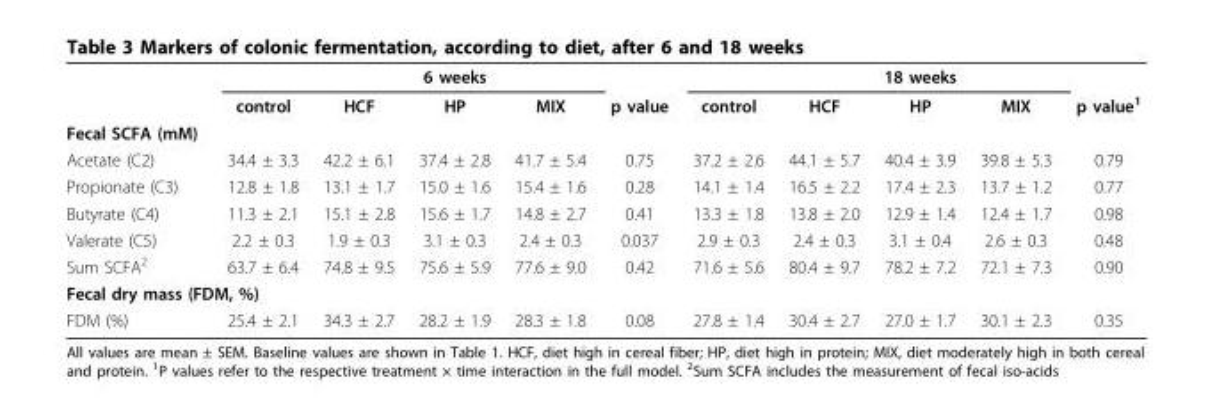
<table><thead><tr><td rowspan="2"></td><td rowspan="2">control</td><td colspan="3">6 weeks</td><td rowspan="2">p value</td><td rowspan="2">control</td><td colspan="3">18 weeks</td><td rowspan="2">p value<sup>1</sup></td></tr><tr><td>HCF</td><td>HP</td><td>MIX</td><td>HCF</td><td>HP</td><td>MIX</td></tr></thead><tbody><tr><td colspan="11">Fecal SCFA (mM)</td></tr><tr><td>Acetate (C2)</td><td>34.4 ± 3.3</td><td>42.2 ± 6.1</td><td>37.4 ± 2.8</td><td>41.7 ± 5.4</td><td>0.75</td><td>37.2 ± 2.6</td><td>44.1 ± 5.7</td><td>40.4 ± 3.9</td><td>39.8 ± 5.3</td><td>0.79</td></tr><tr><td>Propionate (C3)</td><td>12.8 ± 1.8</td><td>13.1 ± 1.7</td><td>15.0 ± 1.6</td><td>15.4 ± 1.6</td><td>0.28</td><td>14.1 ± 1.4</td><td>16.5 ± 2.2</td><td>17.4 ± 2.3</td><td>13.7 ± 1.2</td><td>0.77</td></tr><tr><td>Butyrate (C4)</td><td>11.3 ± 2.1</td><td>15.1 ± 2.8</td><td>15.6 ± 1.7</td><td>14.8 ± 2.7</td><td>0.41</td><td>13.3 ± 1.8</td><td>13.8 ± 2.0</td><td>12.9 ± 1.4</td><td>12.4 ± 1.7</td><td>0.98</td></tr><tr><td>Valerate (C5)</td><td>2.2 ± 0.3</td><td>1.9 ± 0.3</td><td>3.1 ± 0.3</td><td>2.4 ± 0.3</td><td>0.037</td><td>2.9 ± 0.3</td><td>2.4 ± 0.3</td><td>3.1 ± 0.4</td><td>2.6 ± 0.3</td><td>0.48</td></tr><tr><td>Sum SCFA<sup>2</sup></td><td>63.7 ± 6.4</td><td>74.8 ± 9.5</td><td>75.6 ± 5.9</td><td>77.6 ± 9.0</td><td>0.42</td><td>71.6 ± 5.6</td><td>80.4 ± 9.7</td><td>78.2 ± 7.2</td><td>72.1 ± 7.3</td><td>0.90</td></tr><tr><td colspan="11">Fecal dry mass (FDM, %)</td></tr><tr><td>FDM (%)</td><td>25.4 ± 2.1</td><td>34.3 ± 2.7</td><td>28.2 ± 1.9</td><td>28.3 ± 1.8</td><td>0.08</td><td>27.8 ± 1.4</td><td>30.4 ± 2.7</td><td>27.0 ± 1.7</td><td>30.1 ± 2.3</td><td>0.35</td></tr></tbody></table>